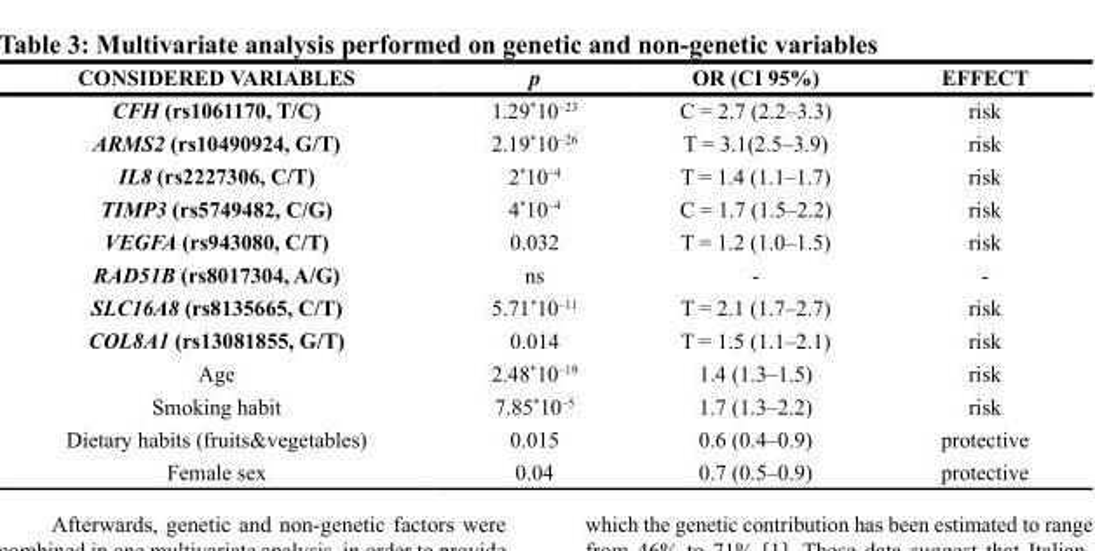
<table><thead><tr><td>CONSIDERED VARIABLES</td><td>p</td><td>OR (CI 95%)</td><td>EFFECT</td></tr></thead><tbody><tr><td>CFH (rs1061170, T/C)</td><td>1.29*10<sup>–23</sup></td><td>C = 2.7 (2.2–3.3)</td><td>risk</td></tr><tr><td>ARMS2 (rs10490924, G/T)</td><td>2.19*10<sup>–26</sup></td><td>T = 3.1(2.5–3.9)</td><td>risk</td></tr><tr><td>IL8 (rs2227306, C/T)</td><td>2*10<sup>–4</sup></td><td>T = 1.4 (1.1–1.7)</td><td>risk</td></tr><tr><td>TIMP3 (rs5749482, C/G)</td><td>4*10<sup>–4</sup></td><td>C = 1.7 (1.5–2.2)</td><td>risk</td></tr><tr><td>VEGFA (rs943080, C/T)</td><td>0.032</td><td>T = 1.2 (1.0–1.5)</td><td>risk</td></tr><tr><td>RAD51B (rs8017304, A/G)</td><td>ns</td><td>-</td><td>-</td></tr><tr><td>SLC16A8 (rs8135665, C/T)</td><td>5.71*10<sup>–11</sup></td><td>T = 2.1 (1.7–2.7)</td><td>risk</td></tr><tr><td>COL8A1 (rs13081855, G/T)</td><td>0.014</td><td>T = 1.5 (1.1–2.1)</td><td>risk</td></tr><tr><td>Age</td><td>2.48*10<sup>–19</sup></td><td>1.4 (1.3–1.5)</td><td>risk</td></tr><tr><td>Smoking habit</td><td>7.85*10<sup>–5</sup></td><td>1.7 (1.3–2.2)</td><td>risk</td></tr><tr><td>Dietary habits (fruits&amp;vegetables)</td><td>0.015</td><td>0.6 (0.4–0.9)</td><td>protective</td></tr><tr><td>Female sex</td><td>0.04</td><td>0.7 (0.5–0.9)</td><td>protective</td></tr></tbody></table>